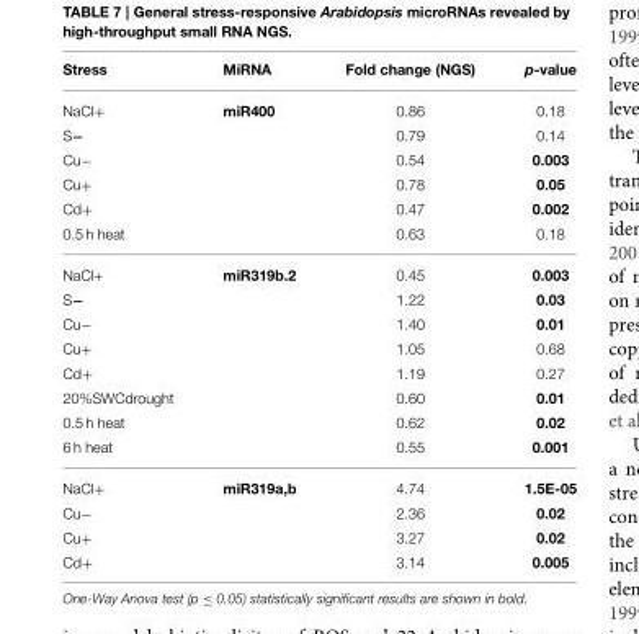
<table><thead><tr><td>Stress</td><td>MiRNA</td><td>Fold change (NGS)</td><td>p-value</td></tr></thead><tbody><tr><td>NaCl+</td><td>miR400</td><td>0.86</td><td>0.18</td></tr><tr><td>S−</td><td></td><td>0.79</td><td>0.14</td></tr><tr><td>Cu−</td><td></td><td>0.54</td><td>0.003</td></tr><tr><td>Cu+</td><td></td><td>0.78</td><td>0.05</td></tr><tr><td>Cd+</td><td></td><td>0.47</td><td>0.002</td></tr><tr><td>0.5 h heat</td><td></td><td>0.63</td><td>0.18</td></tr><tr><td>NaCl+</td><td>miR319b.2</td><td>0.45</td><td>0.003</td></tr><tr><td>S−</td><td></td><td>1.22</td><td>0.03</td></tr><tr><td>Cu−</td><td></td><td>1.40</td><td>0.01</td></tr><tr><td>Cu+</td><td></td><td>1.05</td><td>0.68</td></tr><tr><td>Cd+</td><td></td><td>1.19</td><td>0.27</td></tr><tr><td>20%SWCdrought</td><td></td><td>0.60</td><td>0.01</td></tr><tr><td>0.5 h heat</td><td></td><td>0.62</td><td>0.02</td></tr><tr><td>6 h heat</td><td></td><td>0.55</td><td>0.001</td></tr><tr><td>NaCl+</td><td>miR319a,b</td><td>4.74</td><td>1.5E-05</td></tr><tr><td>Cu−</td><td></td><td>2.36</td><td>0.02</td></tr><tr><td>Cu+</td><td></td><td>3.27</td><td>0.02</td></tr><tr><td>Cd+</td><td></td><td>3.14</td><td>0.005</td></tr></tbody></table>